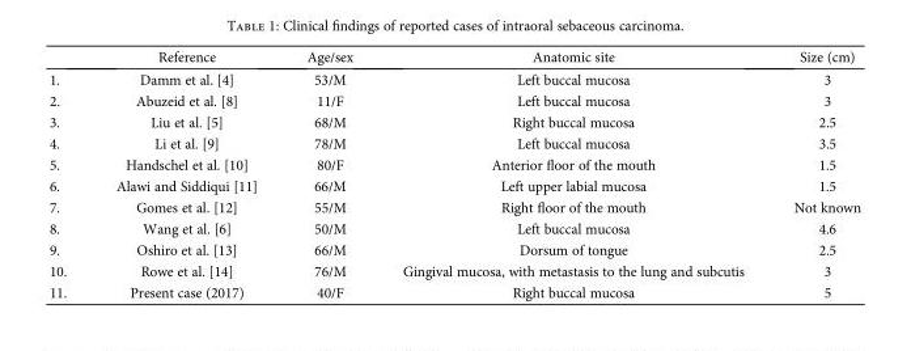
<table><thead><tr><td></td><td>Reference</td><td>Age/sex</td><td>Anatomic site</td><td>Size (cm)</td></tr></thead><tbody><tr><td>1.</td><td>Damm et al. [4]</td><td>53/M</td><td>Left buccal mucosa</td><td>3</td></tr><tr><td>2.</td><td>Abuzeid et al. [8]</td><td>11/F</td><td>Left buccal mucosa</td><td>3</td></tr><tr><td>3.</td><td>Liu et al. [5]</td><td>68/M</td><td>Right buccal mucosa</td><td>2.5</td></tr><tr><td>4.</td><td>Li et al. [9]</td><td>78/M</td><td>Left buccal mucosa</td><td>3.5</td></tr><tr><td>5.</td><td>Handschel et al. [10]</td><td>80/F</td><td>Anterior floor of the mouth</td><td>1.5</td></tr><tr><td>6.</td><td>Alawi and Siddiqui [11]</td><td>66/M</td><td>Left upper labial mucosa</td><td>1.5</td></tr><tr><td>7.</td><td>Gomes et al. [12]</td><td>55/M</td><td>Right floor of the mouth</td><td>Not known</td></tr><tr><td>8.</td><td>Wang et al. [6]</td><td>50/M</td><td>Left buccal mucosa</td><td>4.6</td></tr><tr><td>9.</td><td>Oshiro et al. [13]</td><td>66/M</td><td>Dorsum of tongue</td><td>2.5</td></tr><tr><td>10.</td><td>Rowe et al. [14]</td><td>76/M</td><td>Gingival mucosa, with metastasis to the lung and subcutis</td><td>3</td></tr><tr><td>11.</td><td>Present case (2017)</td><td>40/F</td><td>Right buccal mucosa</td><td>5</td></tr></tbody></table>